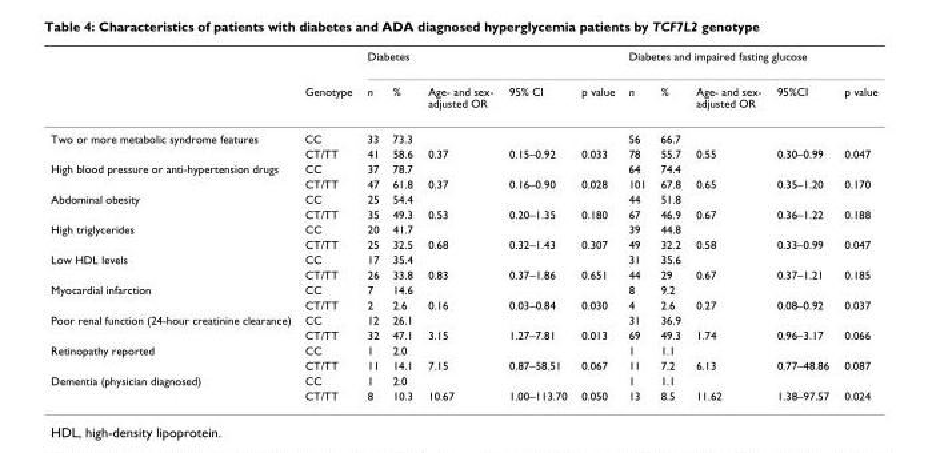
<table><thead><tr><td rowspan="2"></td><td rowspan="2">Genotype</td><td colspan="5">Diabetes</td><td colspan="5">Diabetes and impaired fasting glucose</td></tr><tr><td>n</td><td>%</td><td>Age- and sex- adjusted OR</td><td>95% CI</td><td>p value</td><td>n</td><td>%</td><td>Age- and sex- adjusted OR</td><td>95%CI</td><td>p value</td></tr></thead><tbody><tr><td rowspan="2">Two or more metabolic syndrome features</td><td>CC</td><td>33</td><td>73.3</td><td></td><td></td><td></td><td>56</td><td>66.7</td><td></td><td></td><td></td></tr><tr><td>CT/TT</td><td>41</td><td>58.6</td><td>0.37</td><td>0.15–0.92</td><td>0.033</td><td>78</td><td>55.7</td><td>0.55</td><td>0.30–0.99</td><td>0.047</td></tr><tr><td rowspan="2">High blood pressure or anti-hypertension drugs</td><td>CC</td><td>37</td><td>78.7</td><td></td><td></td><td></td><td>64</td><td>74.4</td><td></td><td></td><td></td></tr><tr><td>CT/TT</td><td>47</td><td>61.8</td><td>0.37</td><td>0.16–0.90</td><td>0.028</td><td>101</td><td>67.8</td><td>0.65</td><td>0.35–1.20</td><td>0.170</td></tr><tr><td rowspan="2">Abdominal obesity</td><td>CC</td><td>25</td><td>54.4</td><td></td><td></td><td></td><td>44</td><td>51.8</td><td></td><td></td><td></td></tr><tr><td>CT/TT</td><td>35</td><td>49.3</td><td>0.53</td><td>0.20–1.35</td><td>0.180</td><td>67</td><td>46.9</td><td>0.67</td><td>0.36–1.22</td><td>0.188</td></tr><tr><td rowspan="2">High triglycerides</td><td>CC</td><td>20</td><td>41.7</td><td></td><td></td><td></td><td>39</td><td>44.8</td><td></td><td></td><td></td></tr><tr><td>CT/TT</td><td>25</td><td>32.5</td><td>0.68</td><td>0.32–1.43</td><td>0.307</td><td>49</td><td>32.2</td><td>0.58</td><td>0.33–0.99</td><td>0.047</td></tr><tr><td rowspan="2">Low HDL levels</td><td>CC</td><td>17</td><td>35.4</td><td></td><td></td><td></td><td>31</td><td>35.6</td><td></td><td></td><td></td></tr><tr><td>CT/TT</td><td>26</td><td>33.8</td><td>0.83</td><td>0.37–1.86</td><td>0.651</td><td>44</td><td>29</td><td>0.67</td><td>0.37–1.21</td><td>0.185</td></tr><tr><td rowspan="2">Myocardial infarction</td><td>CC</td><td>7</td><td>14.6</td><td></td><td></td><td></td><td>8</td><td>9.2</td><td></td><td></td><td></td></tr><tr><td>CT/TT</td><td>2</td><td>2.6</td><td>0.16</td><td>0.03–0.84</td><td>0.030</td><td>4</td><td>2.6</td><td>0.27</td><td>0.08–0.92</td><td>0.037</td></tr><tr><td rowspan="2">Poor renal function (24-hour creatinine clearance)</td><td>CC</td><td>12</td><td>26.1</td><td></td><td></td><td></td><td>31</td><td>36.9</td><td></td><td></td><td></td></tr><tr><td>CT/TT</td><td>32</td><td>47.1</td><td>3.15</td><td>1.27–7.81</td><td>0.013</td><td>69</td><td>49.3</td><td>1.74</td><td>0.96–3.17</td><td>0.066</td></tr><tr><td rowspan="2">Retinopathy reported</td><td>CC</td><td>1</td><td>2.0</td><td></td><td></td><td></td><td>1</td><td>1.1</td><td></td><td></td><td></td></tr><tr><td>CT/TT</td><td>11</td><td>14.1</td><td>7.15</td><td>0.87–58.51</td><td>0.067</td><td>11</td><td>7.2</td><td>6.13</td><td>0.77–48.86</td><td>0.087</td></tr><tr><td rowspan="2">Dementia (physician diagnosed)</td><td>CC</td><td>1</td><td>2.0</td><td></td><td></td><td></td><td>1</td><td>1.1</td><td></td><td></td><td></td></tr><tr><td>CT/TT</td><td>8</td><td>10.3</td><td>10.67</td><td>1.00–113.70</td><td>0.050</td><td>13</td><td>8.5</td><td>11.62</td><td>1.38–97.57</td><td>0.024</td></tr></tbody></table>